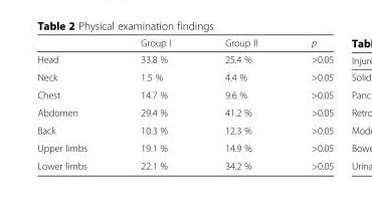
<table><thead><tr><td></td><td>Group I</td><td>Group II</td><td>p</td></tr></thead><tbody><tr><td>Head</td><td>33.8 %</td><td>25.4 %</td><td>&gt;0.05</td></tr><tr><td>Neck</td><td>1.5 %</td><td>4.4 %</td><td>&gt;0.05</td></tr><tr><td>Chest</td><td>14.7 %</td><td>9.6 %</td><td>&gt;0.05</td></tr><tr><td>Abdomen</td><td>29.4 %</td><td>41.2 %</td><td>&gt;0.05</td></tr><tr><td>Back</td><td>10.3 %</td><td>12.3 %</td><td>&gt;0.05</td></tr><tr><td>Upper limbs</td><td>19.1 %</td><td>14.9 %</td><td>&gt;0.05</td></tr><tr><td>Lower limbs</td><td>22.1 %</td><td>34.2 %</td><td>&gt;0.05</td></tr></tbody></table>